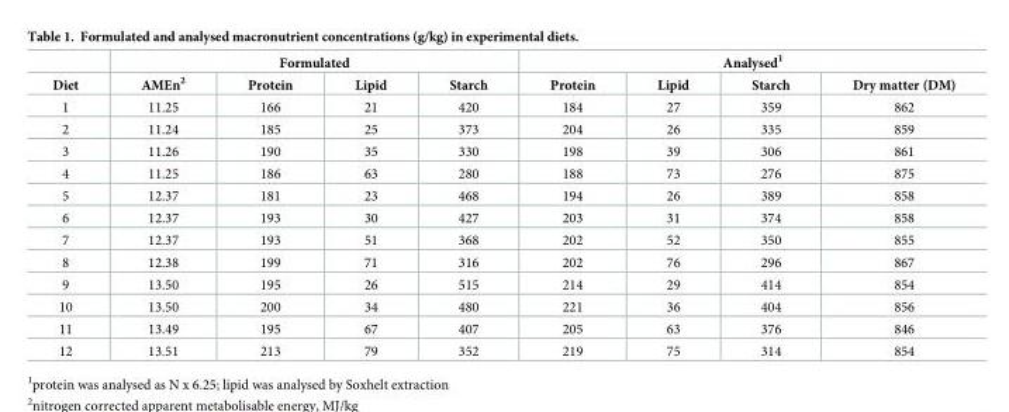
<table><thead><tr><td rowspan="2">Diet</td><td colspan="4">Formulated</td><td colspan="4">Analysed<sup>1</sup></td></tr><tr><td>AMEn<sup>2</sup></td><td>Protein</td><td>Lipid</td><td>Starch</td><td>Protein</td><td>Lipid</td><td>Starch</td><td>Dry matter (DM)</td></tr></thead><tbody><tr><td>1</td><td>11.25</td><td>166</td><td>21</td><td>420</td><td>184</td><td>27</td><td>359</td><td>862</td></tr><tr><td>2</td><td>11.24</td><td>185</td><td>25</td><td>373</td><td>204</td><td>26</td><td>335</td><td>859</td></tr><tr><td>3</td><td>11.26</td><td>190</td><td>35</td><td>330</td><td>198</td><td>39</td><td>306</td><td>861</td></tr><tr><td>4</td><td>11.25</td><td>186</td><td>63</td><td>280</td><td>188</td><td>73</td><td>276</td><td>875</td></tr><tr><td>5</td><td>12.37</td><td>181</td><td>23</td><td>468</td><td>194</td><td>26</td><td>389</td><td>858</td></tr><tr><td>6</td><td>12.37</td><td>193</td><td>30</td><td>427</td><td>203</td><td>31</td><td>374</td><td>858</td></tr><tr><td>7</td><td>12.37</td><td>193</td><td>51</td><td>368</td><td>202</td><td>52</td><td>350</td><td>855</td></tr><tr><td>8</td><td>12.38</td><td>199</td><td>71</td><td>316</td><td>202</td><td>76</td><td>296</td><td>867</td></tr><tr><td>9</td><td>13.50</td><td>195</td><td>26</td><td>515</td><td>214</td><td>29</td><td>414</td><td>854</td></tr><tr><td>10</td><td>13.50</td><td>200</td><td>34</td><td>480</td><td>221</td><td>36</td><td>404</td><td>856</td></tr><tr><td>11</td><td>13.49</td><td>195</td><td>67</td><td>407</td><td>205</td><td>63</td><td>376</td><td>846</td></tr><tr><td>12</td><td>13.51</td><td>213</td><td>79</td><td>352</td><td>219</td><td>75</td><td>314</td><td>854</td></tr></tbody></table>